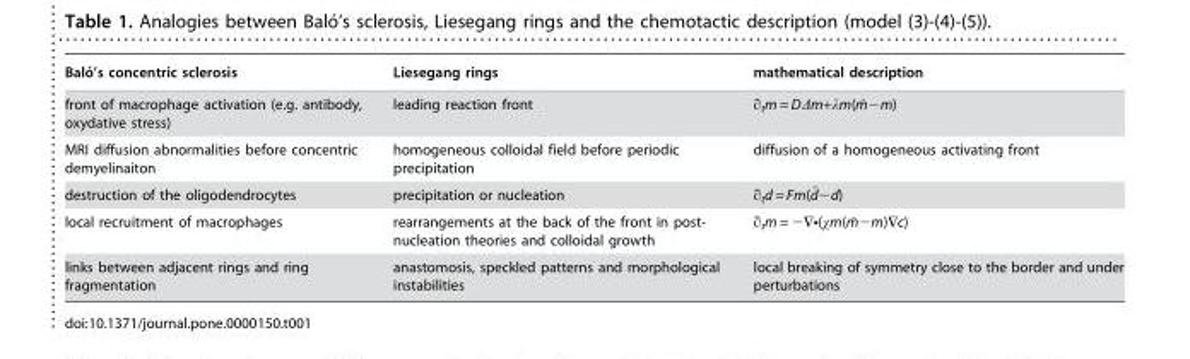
<table><thead><tr><td>Balo´’s concentric sclerosis</td><td>Liesegang rings</td><td>mathematical description</td></tr></thead><tbody><tr><td>front of macrophage activation (e.g. antibody, oxydative stress)</td><td>leading reaction front</td><td>qtm = DDm+lm(m¯ 2m)</td></tr><tr><td>MRI diffusion abnormalities before concentric demyelinaiton</td><td>homogeneous colloidal field before periodic precipitation</td><td>diffusion of a homogeneous activating front</td></tr><tr><td>destruction of the oligodendrocytes</td><td>precipitation or nucleation</td><td>qtd = Fm(d¯2d)</td></tr><tr><td>local recruitment of macrophages</td><td>rearrangements at the back of the front in post- nucleation theories and colloidal growth</td><td>qtm = 2MN(xm(m¯ 2m)Mc)</td></tr><tr><td>links between adjacent rings and ring fragmentation</td><td>anastomosis, speckled patterns and morphological instabilities</td><td>local breaking of symmetry close to the border and under perturbations</td></tr></tbody></table>